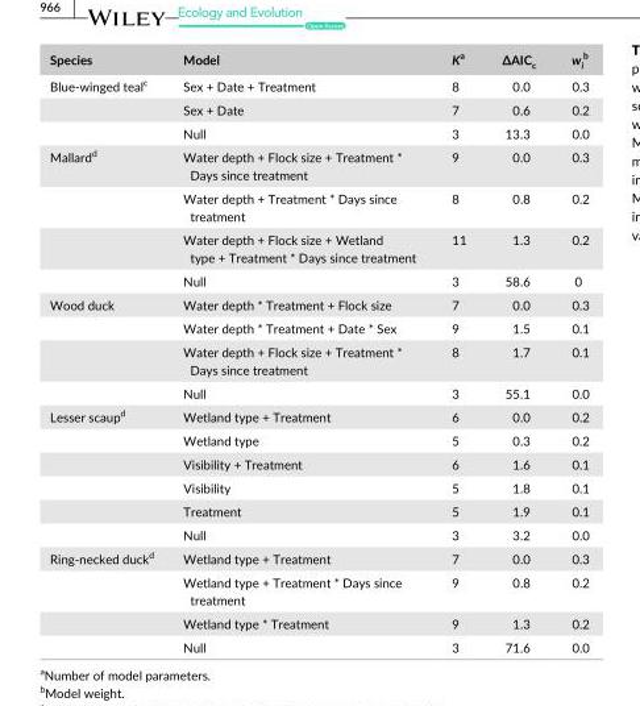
<table><thead><tr><td>Species</td><td>Model</td><td>Ka</td><td>∆AIC<sub>c</sub></td><td>w<sub>i</sub> b</td></tr></thead><tbody><tr><td rowspan="3">Blue- winged teal<sup>c</sup></td><td>Sex + Date + Treatment</td><td>8</td><td>0.0</td><td>0.3</td></tr><tr><td>Sex + Date</td><td>7</td><td>0.6</td><td>0.2</td></tr><tr><td>Null</td><td>3</td><td>13.3</td><td>0.0</td></tr><tr><td rowspan="4">Mallard<sup>d</sup></td><td>Water depth + Flock size + Treatment * Days since treatment</td><td>9</td><td>0.0</td><td>0.3</td></tr><tr><td>Water depth + Treatment * Days since treatment</td><td>8</td><td>0.8</td><td>0.2</td></tr><tr><td>Water depth + Flock size + Wetland type + Treatment * Days since treatment</td><td>11</td><td>1.3</td><td>0.2</td></tr><tr><td>Null</td><td>3</td><td>58.6</td><td>0</td></tr><tr><td rowspan="4">Wood duck</td><td>Water depth * Treatment + Flock size</td><td>7</td><td>0.0</td><td>0.3</td></tr><tr><td>Water depth * Treatment + Date * Sex</td><td>9</td><td>1.5</td><td>0.1</td></tr><tr><td>Water depth + Flock size + Treatment * Days since treatment</td><td>8</td><td>1.7</td><td>0.1</td></tr><tr><td>Null</td><td>3</td><td>55.1</td><td>0.0</td></tr><tr><td rowspan="6">Lesser scaup<sup>d</sup></td><td>Wetland type + Treatment</td><td>6</td><td>0.0</td><td>0.2</td></tr><tr><td>Wetland type</td><td>5</td><td>0.3</td><td>0.2</td></tr><tr><td>Visibility + Treatment</td><td>6</td><td>1.6</td><td>0.1</td></tr><tr><td>Visibility</td><td>5</td><td>1.8</td><td>0.1</td></tr><tr><td>Treatment</td><td>5</td><td>1.9</td><td>0.1</td></tr><tr><td>Null</td><td>3</td><td>3.2</td><td>0.0</td></tr><tr><td rowspan="4">Ring- necked duck<sup>d</sup></td><td>Wetland type + Treatment</td><td>7</td><td>0.0</td><td>0.3</td></tr><tr><td>Wetland type + Treatment * Days since treatment</td><td>9</td><td>0.8</td><td>0.2</td></tr><tr><td>Wetland type * Treatment</td><td>9</td><td>1.3</td><td>0.2</td></tr><tr><td>Null</td><td>3</td><td>71.6</td><td>0.0</td></tr></tbody></table>